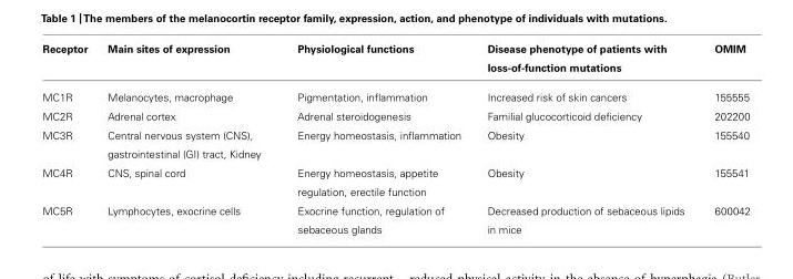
<table><thead><tr><td>Receptor</td><td>Main sites of expression</td><td>Physiological functions</td><td>Disease phenotype of patients with loss-of-function mutations</td><td>OMIM</td></tr></thead><tbody><tr><td>MC1R</td><td>Melanocytes, macrophage</td><td>Pigmentation, inflammation</td><td>Increased risk of skin cancers</td><td>155555</td></tr><tr><td>MC2R</td><td>Adrenal cortex</td><td>Adrenal steroidogenesis</td><td>Familial glucocorticoid deficiency</td><td>202200</td></tr><tr><td>MC3R</td><td>Central nervous system (CNS), gastrointestinal (GI) tract, Kidney</td><td>Energy homeostasis, inflammation</td><td>Obesity</td><td>155540</td></tr><tr><td>MC4R</td><td>CNS, spinal cord</td><td>Energy homeostasis, appetite regulation, erectile function</td><td>Obesity</td><td>155541</td></tr><tr><td>MC5R</td><td>Lymphocytes, exocrine cells</td><td>Exocrine function, regulation of sebaceous glands</td><td>Decreased production of sebaceous lipids in mice</td><td>600042</td></tr></tbody></table>